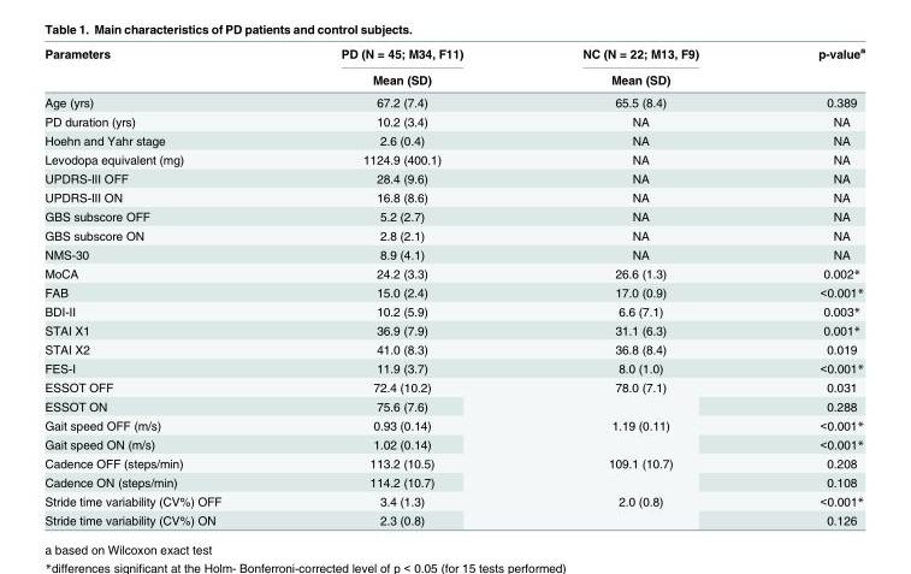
<table><thead><tr><td rowspan="2">Parameters</td><td rowspan="2">PD (N = 45; M34, F11) Mean (SD)</td><td rowspan="2">NC (N = 22; M13, F9) Mean (SD)</td><td rowspan="2">p-value<sup>a</sup></td></tr><tr></tr></thead><tbody><tr><td>Age (yrs)</td><td>67.2 (7.4)</td><td>65.5 (8.4)</td><td>0.389</td></tr><tr><td>PD duration (yrs)</td><td>10.2 (3.4)</td><td>NA</td><td>NA</td></tr><tr><td>Hoehn and Yahr stage</td><td>2.6 (0.4)</td><td>NA</td><td>NA</td></tr><tr><td>Levodopa equivalent (mg)</td><td>1124.9 (400.1)</td><td>NA</td><td>NA</td></tr><tr><td>UPDRS-III OFF</td><td>28.4 (9.6)</td><td>NA</td><td>NA</td></tr><tr><td>UPDRS-III ON</td><td>16.8 (8.6)</td><td>NA</td><td>NA</td></tr><tr><td>GBS subscore OFF</td><td>5.2 (2.7)</td><td>NA</td><td>NA</td></tr><tr><td>GBS subscore ON</td><td>2.8 (2.1)</td><td>NA</td><td>NA</td></tr><tr><td>NMS-30</td><td>8.9 (4.1)</td><td>NA</td><td>NA</td></tr><tr><td>MoCA</td><td>24.2 (3.3)</td><td>26.6 (1.3)</td><td>0.002*</td></tr><tr><td>FAB</td><td>15.0 (2.4)</td><td>17.0 (0.9)</td><td>&lt;0.001*</td></tr><tr><td>BDI-II</td><td>10.2 (5.9)</td><td>6.6 (7.1)</td><td>0.003*</td></tr><tr><td>STAI X1</td><td>36.9 (7.9)</td><td>31.1 (6.3)</td><td>0.001*</td></tr><tr><td>STAI X2</td><td>41.0 (8.3)</td><td>36.8 (8.4)</td><td>0.019</td></tr><tr><td>FES-I</td><td>11.9 (3.7)</td><td>8.0 (1.0)</td><td>&lt;0.001*</td></tr><tr><td>ESSOT OFF</td><td>72.4 (10.2)</td><td rowspan="2">78.0 (7.1)</td><td>0.031</td></tr><tr><td>ESSOT ON</td><td>75.6 (7.6)</td><td>0.288</td></tr><tr><td>Gait speed OFF (m/s)</td><td>0.93 (0.14)</td><td rowspan="2">1.19 (0.11)</td><td>&lt;0.001*</td></tr><tr><td>Gait speed ON (m/s)</td><td>1.02 (0.14)</td><td>&lt;0.001*</td></tr><tr><td>Cadence OFF (steps/min)</td><td>113.2 (10.5)</td><td rowspan="2">109.1 (10.7)</td><td>0.208</td></tr><tr><td>Cadence ON (steps/min)</td><td>114.2 (10.7)</td><td>0.108</td></tr><tr><td>Stride time variability (CV%) OFF</td><td>3.4 (1.3)</td><td rowspan="2">2.0 (0.8)</td><td>&lt;0.001*</td></tr><tr><td>Stride time variability (CV%) ON</td><td>2.3 (0.8)</td><td>0.126</td></tr></tbody></table>